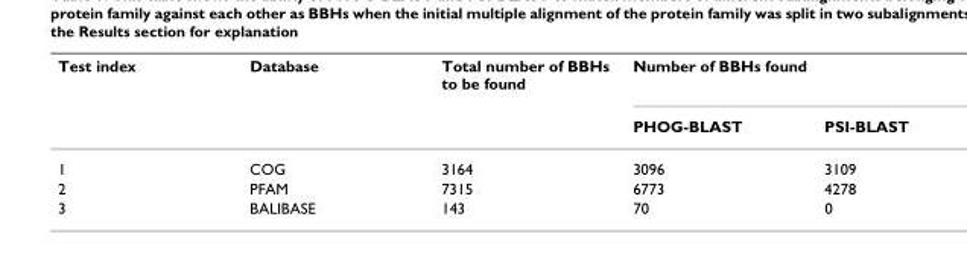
<table><thead><tr><td rowspan="2">Test index</td><td rowspan="2">Database</td><td rowspan="2">Total number of BBHs to be found</td><td colspan="2">Number of BBHs found</td></tr><tr><td>PHOG-BLAST</td><td>PSI-BLAST</td></tr></thead><tbody><tr><td>1</td><td>COG</td><td>3164</td><td>3096</td><td>3109</td></tr><tr><td>2</td><td>PFAM</td><td>7315</td><td>6773</td><td>4278</td></tr><tr><td>3</td><td>BALIBASE</td><td>143</td><td>70</td><td>0</td></tr></tbody></table>